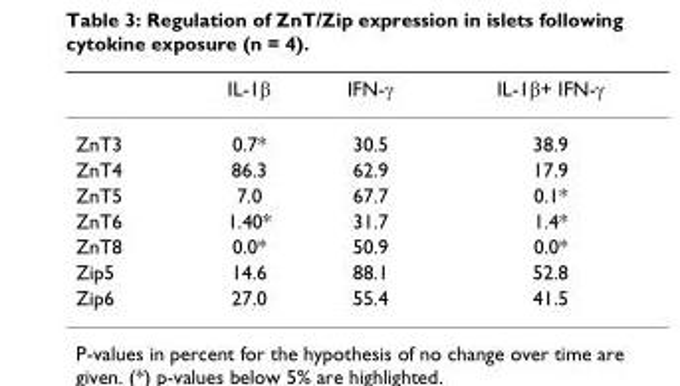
<table><thead><tr><td></td><td>IL-1β</td><td>IFN-γ</td><td>IL-1β+ IFN-γ</td></tr></thead><tbody><tr><td>ZnT3</td><td>0.7*</td><td>30.5</td><td>38.9</td></tr><tr><td>ZnT4</td><td>86.3</td><td>62.9</td><td>17.9</td></tr><tr><td>ZnT5</td><td>7.0</td><td>67.7</td><td>0.1*</td></tr><tr><td>ZnT6</td><td>1.40*</td><td>31.7</td><td>1.4*</td></tr><tr><td>ZnT8</td><td>0.0*</td><td>50.9</td><td>0.0*</td></tr><tr><td>Zip5</td><td>14.6</td><td>88.1</td><td>52.8</td></tr><tr><td>Zip6</td><td>27.0</td><td>55.4</td><td>41.5</td></tr></tbody></table>